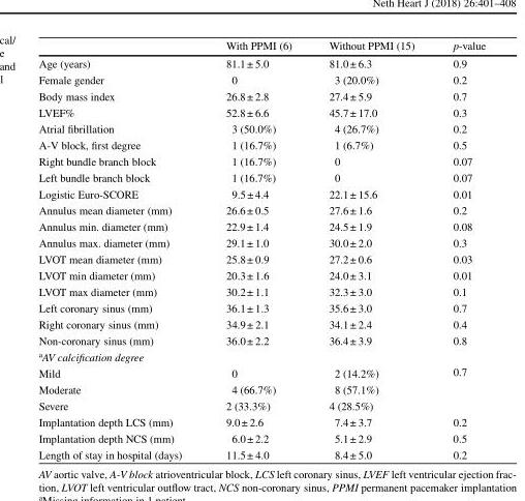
<table><thead><tr><td></td><td>With PPMI (6)</td><td>Without PPMI (15)</td><td>p-value</td></tr></thead><tbody><tr><td>Age (years)</td><td>81.1± 5.0</td><td>81.0± 6.3</td><td>0.9</td></tr><tr><td>Female gender</td><td>0</td><td>3 (20.0%)</td><td>0.2</td></tr><tr><td>Body mass index</td><td>26.8± 2.8</td><td>27.4± 5.9</td><td>0.7</td></tr><tr><td>LVEF%</td><td>52.8± 6.6</td><td>45.7± 17.0</td><td>0.3</td></tr><tr><td>Atrial fibrillation</td><td>3 (50.0%)</td><td>4 (26.7%)</td><td>0.2</td></tr><tr><td>A-V block, first degree</td><td>1 (16.7%)</td><td>1 (6.7%)</td><td>0.5</td></tr><tr><td>Right bundle branch block</td><td>1 (16.7%)</td><td>0</td><td>0.07</td></tr><tr><td>Left bundle branch block</td><td>1 (16.7%)</td><td>0</td><td>0.07</td></tr><tr><td>Logistic Euro-SCORE</td><td>9.5± 4.4</td><td>22.1± 15.6</td><td>0.01</td></tr><tr><td>Annulus mean diameter (mm)</td><td>26.6± 0.5</td><td>27.6± 1.6</td><td>0.2</td></tr><tr><td>Annulus min. diameter (mm)</td><td>22.9± 1.4</td><td>24.5± 1.9</td><td>0.08</td></tr><tr><td>Annulus max. diameter (mm)</td><td>29.1± 1.0</td><td>30.0± 2.0</td><td>0.3</td></tr><tr><td>LVOT mean diameter (mm)</td><td>25.8± 0.9</td><td>27.2± 0.6</td><td>0.03</td></tr><tr><td>LVOT min diameter (mm)</td><td>20.3± 1.6</td><td>24.0± 3.1</td><td>0.01</td></tr><tr><td>LVOT max diameter (mm)</td><td>30.2± 1.1</td><td>32.3± 3.0</td><td>0.1</td></tr><tr><td>Left coronary sinus (mm)</td><td>36.1± 1.3</td><td>35.6± 3.0</td><td>0.7</td></tr><tr><td>Right coronary sinus (mm)</td><td>34.9± 2.1</td><td>34.1± 2.4</td><td>0.4</td></tr><tr><td>Non-coronary sinus (mm)</td><td>36.0± 2.2</td><td>36.4± 3.9</td><td>0.8</td></tr><tr><td colspan="4"><sup>a</sup>AV calcification degree</td></tr><tr><td>Mild</td><td>0</td><td>2 (14.2%)</td><td rowspan="3">0.7</td></tr><tr><td>Moderate</td><td>4 (66.7%)</td><td>8 (57.1%)</td></tr><tr><td>Severe</td><td>2 (33.3%)</td><td>4 (28.5%)</td></tr><tr><td>Implantation depth LCS (mm)</td><td>9.0± 2.6</td><td>7.4± 3.7</td><td>0.2</td></tr><tr><td>Implantation depth NCS (mm)</td><td>6.0± 2.2</td><td>5.1± 2.9</td><td>0.5</td></tr><tr><td>Length of stay in hospital (days)</td><td>11.5± 4.0</td><td>8.4± 5.0</td><td>0.2</td></tr></tbody></table>